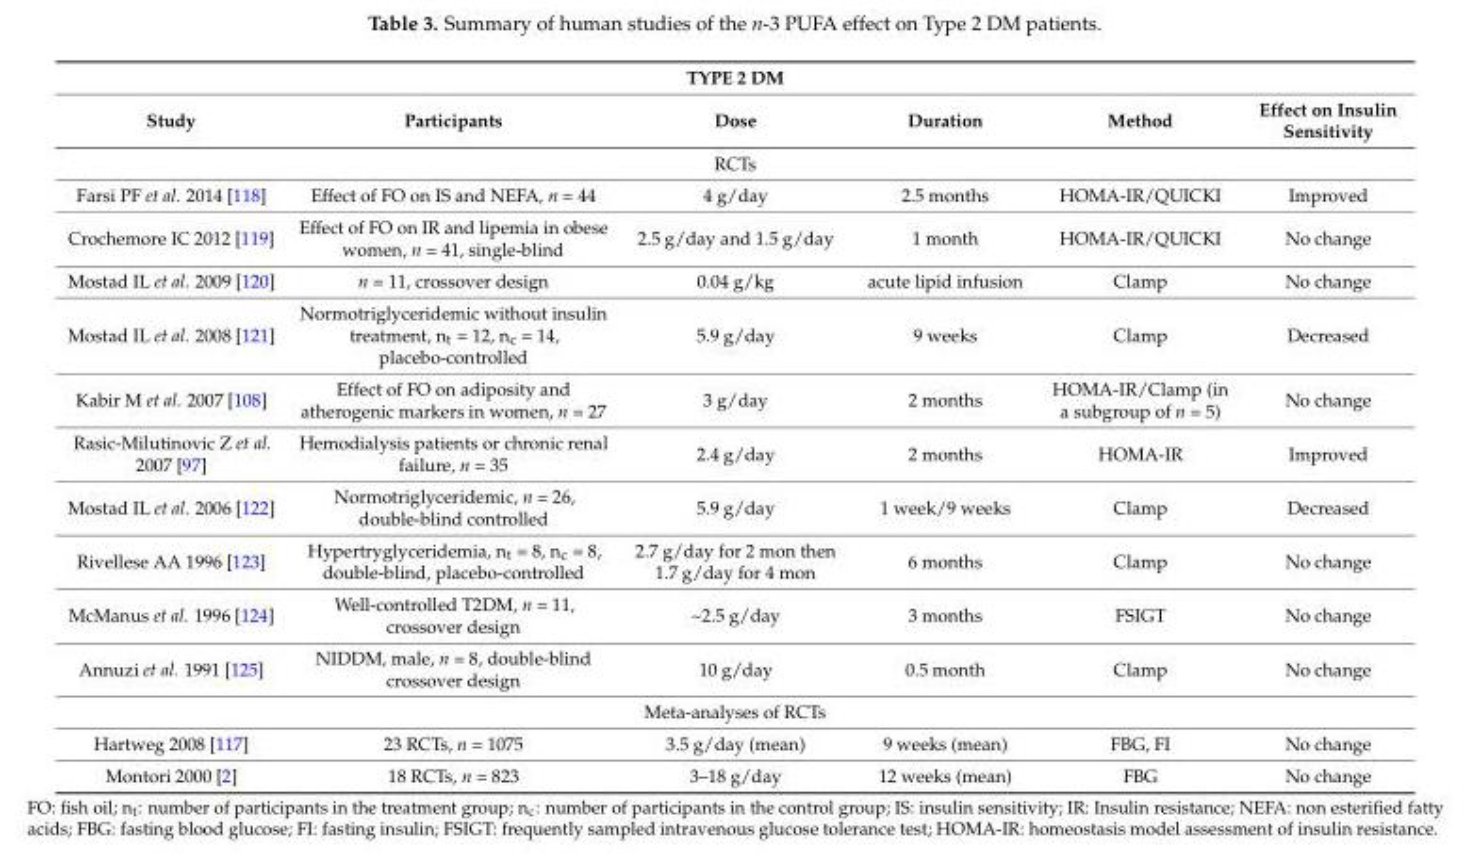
<table><thead><tr><td colspan="6">TYPE 2 DM</td></tr><tr><td>Study</td><td>Participants</td><td>Dose</td><td>Duration</td><td>Method</td><td>Effect on Insulin Sensitivity</td></tr></thead><tbody><tr><td colspan="6">RCTs</td></tr><tr><td>Farsi PF et al. 2014 [118]</td><td>Effect of FO on IS and NEFA, n = 44</td><td>4 g/day</td><td>2.5 months</td><td>HOMA-IR/QUICKI</td><td>Improved</td></tr><tr><td>Crochemore IC 2012 [119]</td><td>Effect of FO on IR and lipemia in obese women, n = 41, single-blind</td><td>2.5 g/day and 1.5 g/day</td><td>1 month</td><td>HOMA-IR/QUICKI</td><td>No change</td></tr><tr><td>Mostad IL et al. 2009 [120]</td><td>n = 11, crossover design</td><td>0.04 g/kg</td><td>acute lipid infusion</td><td>Clamp</td><td>No change</td></tr><tr><td>Mostad IL et al. 2008 [121]</td><td>Normotriglyceridemic without insulin treatment, n<sub>t</sub> = 12, n<sub>c</sub> = 14, placebo-controlled</td><td>5.9 g/day</td><td>9 weeks</td><td>Clamp</td><td>Decreased</td></tr><tr><td>Kabir M et al. 2007 [108]</td><td>Effect of FO on adiposity and atherogenic markers in women, n = 27</td><td>3 g/day</td><td>2 months</td><td>HOMA-IR/Clamp (in a subgroup of n = 5)</td><td>No change</td></tr><tr><td>Rasic-Milutinovic Z et al. 2007 [97]</td><td>Hemodialysis patients or chronic renal failure, n = 35</td><td>2.4 g/day</td><td>2 months</td><td>HOMA-IR</td><td>Improved</td></tr><tr><td>Mostad IL et al. 2006 [122]</td><td>Normotriglyceridemic, n = 26, double-blind controlled</td><td>5.9 g/day</td><td>1 week/9 weeks</td><td>Clamp</td><td>Decreased</td></tr><tr><td>Rivellese AA 1996 [123]</td><td>Hypertryglyceridemia, n<sub>t</sub> = 8, n<sub>c</sub> = 8, double-blind, placebo-controlled</td><td>2.7 g/day for 2 mon then 1.7 g/day for 4 mon</td><td>6 months</td><td>Clamp</td><td>No change</td></tr><tr><td>McManus et al. 1996 [124]</td><td>Well-controlled T2DM, n = 11, crossover design</td><td>~2.5 g/day</td><td>3 months</td><td>FSIGT</td><td>No change</td></tr><tr><td>Annuzi et al. 1991 [125]</td><td>NIDDM, male, n = 8, double-blind crossover design</td><td>10 g/day</td><td>0.5 month</td><td>Clamp</td><td>No change</td></tr><tr><td colspan="6">Meta-analyses of RCTs</td></tr><tr><td>Hartweg 2008 [117]</td><td>23 RCTs, n = 1075</td><td>3.5 g/day (mean)</td><td>9 weeks (mean)</td><td>FBG, FI</td><td>No change</td></tr><tr><td>Montori 2000 [2]</td><td>18 RCTs, n = 823</td><td>3–18 g/day</td><td>12 weeks (mean)</td><td>FBG</td><td>No change</td></tr></tbody></table>